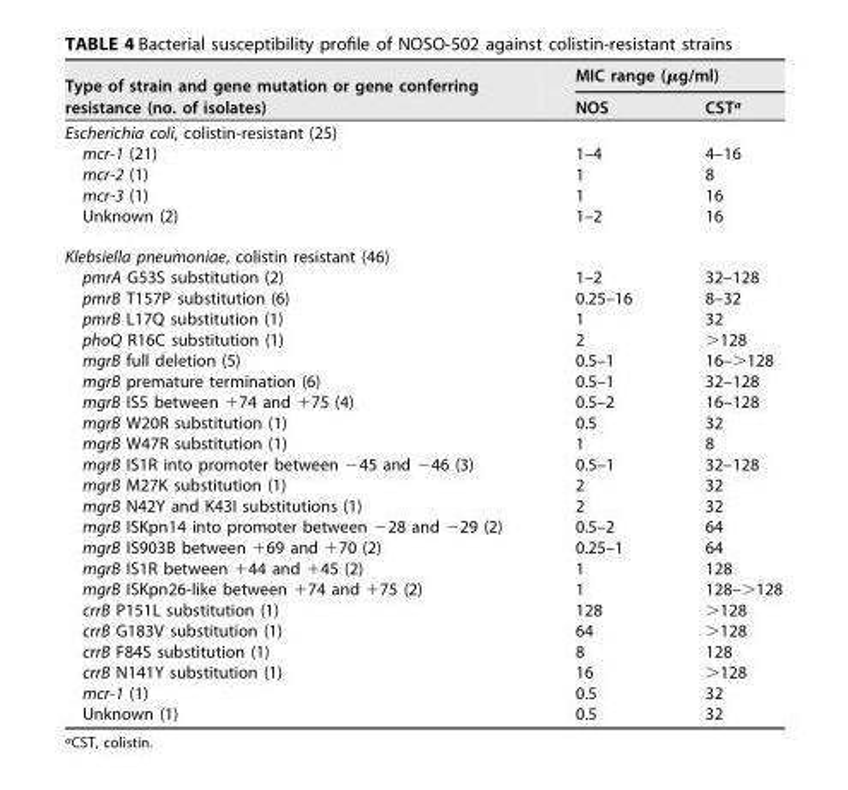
<table><thead><tr><td rowspan="2">Type of strain and gene mutation or gene conferring resistance (no. of isolates)</td><td colspan="2">MIC range (μg/ml)</td></tr><tr><td>NOS</td><td>CST<sup>a</sup></td></tr></thead><tbody><tr><td colspan="3">Escherichia coli, colistin-resistant (25)</td></tr><tr><td>mcr-1 (21)</td><td>1–4</td><td>4–16</td></tr><tr><td>mcr-2 (1)</td><td>1</td><td>8</td></tr><tr><td>mcr-3 (1)</td><td>1</td><td>16</td></tr><tr><td>Unknown (2)</td><td>1–2</td><td>16</td></tr><tr><td colspan="3">Klebsiella pneumoniae, colistin resistant (46)</td></tr><tr><td>pmrA G53S substitution (2)</td><td>1–2</td><td>32–128</td></tr><tr><td>pmrB T157P substitution (6)</td><td>0.25–16</td><td>8–32</td></tr><tr><td>pmrB L17Q substitution (1)</td><td>1</td><td>32</td></tr><tr><td>phoQ R16C substitution (1)</td><td>2</td><td>&gt;128</td></tr><tr><td>mgrB full deletion (5)</td><td>0.5–1</td><td>16–&gt;128</td></tr><tr><td>mgrB premature termination (6)</td><td>0.5–1</td><td>32–128</td></tr><tr><td>mgrB IS5 between +74 and +75 (4)</td><td>0.5–2</td><td>16–128</td></tr><tr><td>mgrB W20R substitution (1)</td><td>0.5</td><td>32</td></tr><tr><td>mgrB W47R substitution (1)</td><td>1</td><td>8</td></tr><tr><td>mgrB IS1R into promoter between −45 and −46 (3)</td><td>0.5–1</td><td>32–128</td></tr><tr><td>mgrB M27K substitution (1)</td><td>2</td><td>32</td></tr><tr><td>mgrB N42Y and K43I substitutions (1)</td><td>2</td><td>32</td></tr><tr><td>mgrB ISKpn14 into promoter between −28 and −29 (2)</td><td>0.5–2</td><td>64</td></tr><tr><td>mgrB IS903B between +69 and +70 (2)</td><td>0.25–1</td><td>64</td></tr><tr><td>mgrB IS1R between +44 and +45 (2)</td><td>1</td><td>128</td></tr><tr><td>mgrB ISKpn26-like between +74 and +75 (2)</td><td>1</td><td>128–&gt;128</td></tr><tr><td>crrB P151L substitution (1)</td><td>128</td><td>&gt;128</td></tr><tr><td>crrB G183V substitution (1)</td><td>64</td><td>&gt;128</td></tr><tr><td>crrB F84S substitution (1)</td><td>8</td><td>128</td></tr><tr><td>crrB N141Y substitution (1)</td><td>16</td><td>&gt;128</td></tr><tr><td>mcr-1 (1)</td><td>0.5</td><td>32</td></tr><tr><td>Unknown (1)</td><td>0.5</td><td>32</td></tr></tbody></table>